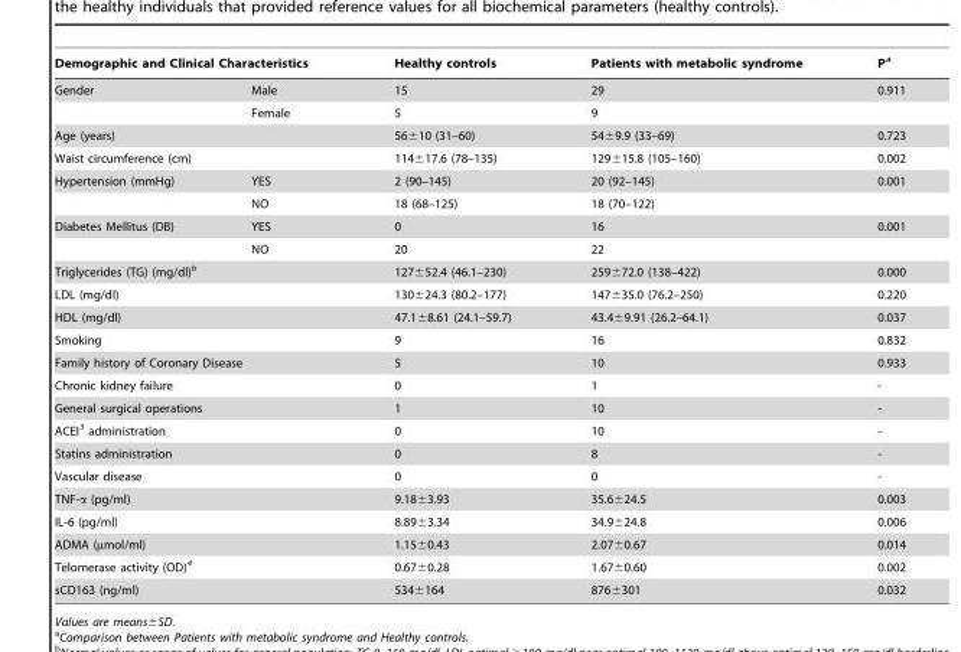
<table><thead><tr><td colspan="2">Demographic and Clinical Characteristics</td><td rowspan="2">Healthy controls 15</td><td rowspan="2">Patients with metabolic syndrome 29</td><td rowspan="2">P<sup>a</sup> 0.911</td></tr><tr><td>Gender</td><td>Male</td></tr></thead><tbody><tr><td></td><td>Female</td><td>5</td><td>9</td><td></td></tr><tr><td colspan="2">Age (years)</td><td>56±10 (31–60)</td><td>54±9.9 (33–69)</td><td>0.723</td></tr><tr><td colspan="2">Waist circumference (cm)</td><td>114±17.6 (78–135)</td><td>129±15.8 (105–160)</td><td>0.002</td></tr><tr><td rowspan="2">Hypertension (mmHg)</td><td>YES</td><td>2 (90–145)</td><td>20 (92–145)</td><td>0.001</td></tr><tr><td>NO</td><td>18 (68–125)</td><td>18 (70–122)</td><td></td></tr><tr><td rowspan="2">Diabetes Mellitus (DB)</td><td>YES</td><td>0</td><td>16</td><td>0.001</td></tr><tr><td>NO</td><td>20</td><td>22</td><td></td></tr><tr><td colspan="2">Triglycerides (TG) (mg/dl)<sup>b</sup></td><td>127±52.4 (46.1–230)</td><td>259±72.0 (138–422)</td><td>0.000</td></tr><tr><td colspan="2">LDL (mg/dl)</td><td>130±24.3 (80.2–177)</td><td>147±35.0 (76.2–250)</td><td>0.220</td></tr><tr><td colspan="2">HDL (mg/dl)</td><td>47.1±8.61 (24.1–59.7)</td><td>43.4±9.91 (26.2–64.1)</td><td>0.037</td></tr><tr><td colspan="2">Smoking</td><td>9</td><td>16</td><td>0.832</td></tr><tr><td colspan="2">Family history of Coronary Disease</td><td>5</td><td>10</td><td>0.933</td></tr><tr><td colspan="2">Chronic kidney failure</td><td>0</td><td>1</td><td>-</td></tr><tr><td colspan="2">General surgical operations</td><td>1</td><td>10</td><td>-</td></tr><tr><td colspan="2">ACEI<sup>3</sup> administration</td><td>0</td><td>10</td><td>-</td></tr><tr><td colspan="2">Statins administration</td><td>0</td><td>8</td><td>-</td></tr><tr><td colspan="2">Vascular disease</td><td>0</td><td>0</td><td>-</td></tr><tr><td colspan="2">TNF-α (pg/ml)</td><td>9.18±3.93</td><td>35.6±24.5</td><td>0.003</td></tr><tr><td colspan="2">IL-6 (pg/ml)</td><td>8.89±3.34</td><td>34.9±24.8</td><td>0.006</td></tr><tr><td colspan="2">ADMA (µmol/ml)</td><td>1.15±0.43</td><td>2.07±0.67</td><td>0.014</td></tr><tr><td colspan="2">Telomerase activity (OD)<sup>4</sup></td><td>0.67±0.28</td><td>1.67±0.60</td><td>0.002</td></tr><tr><td colspan="2">sCD163 (ng/ml)</td><td>534±164</td><td>876±301</td><td>0.032</td></tr></tbody></table>